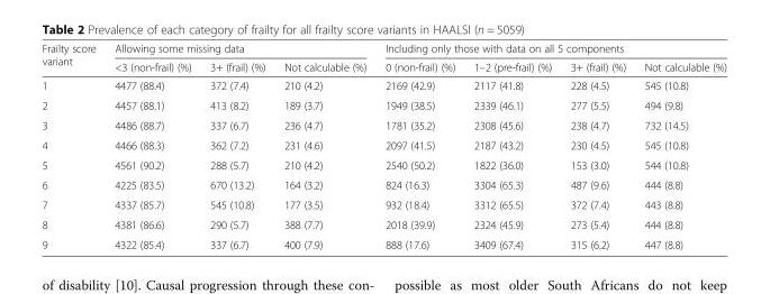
<table><thead><tr><td rowspan="2">Frailty score variant</td><td colspan="3">Allowing some missing data</td><td colspan="4">Including only those with data on all 5 components</td></tr><tr><td>&lt;3 (non-frail) (%)</td><td>3+ (frail) (%)</td><td>Not calculable (%)</td><td>0 (non-frail) (%)</td><td>1–2 (pre-frail) (%)</td><td>3+ (frail) (%)</td><td>Not calculable (%)</td></tr></thead><tbody><tr><td>1</td><td>4477 (88.4)</td><td>372 (7.4)</td><td>210 (4.2)</td><td>2169 (42.9)</td><td>2117 (41.8)</td><td>228 (4.5)</td><td>545 (10.8)</td></tr><tr><td>2</td><td>4457 (88.1)</td><td>413 (8.2)</td><td>189 (3.7)</td><td>1949 (38.5)</td><td>2339 (46.1)</td><td>277 (5.5)</td><td>494 (9.8)</td></tr><tr><td>3</td><td>4486 (88.7)</td><td>337 (6.7)</td><td>236 (4.7)</td><td>1781 (35.2)</td><td>2308 (45.6)</td><td>238 (4.7)</td><td>732 (14.5)</td></tr><tr><td>4</td><td>4466 (88.3)</td><td>362 (7.2)</td><td>231 (4.6)</td><td>2097 (41.5)</td><td>2187 (43.2)</td><td>230 (4.5)</td><td>545 (10.8)</td></tr><tr><td>5</td><td>4561 (90.2)</td><td>288 (5.7)</td><td>210 (4.2)</td><td>2540 (50.2)</td><td>1822 (36.0)</td><td>153 (3.0)</td><td>544 (10.8)</td></tr><tr><td>6</td><td>4225 (83.5)</td><td>670 (13.2)</td><td>164 (3.2)</td><td>824 (16.3)</td><td>3304 (65.3)</td><td>487 (9.6)</td><td>444 (8.8)</td></tr><tr><td>7</td><td>4337 (85.7)</td><td>545 (10.8)</td><td>177 (3.5)</td><td>932 (18.4)</td><td>3312 (65.5)</td><td>372 (7.4)</td><td>443 (8.8)</td></tr><tr><td>8</td><td>4381 (86.6)</td><td>290 (5.7)</td><td>388 (7.7)</td><td>2018 (39.9)</td><td>2324 (45.9)</td><td>273 (5.4)</td><td>444 (8.8)</td></tr><tr><td>9</td><td>4322 (85.4)</td><td>337 (6.7)</td><td>400 (7.9)</td><td>888 (17.6)</td><td>3409 (67.4)</td><td>315 (6.2)</td><td>447 (8.8)</td></tr></tbody></table>